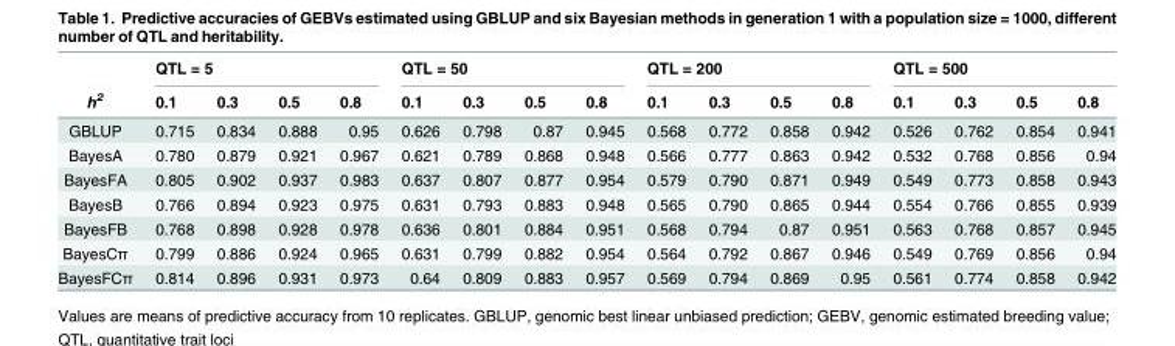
<table><thead><tr><td rowspan="2">h<sup>2</sup></td><td colspan="4">QTL = 5</td><td colspan="4">QTL = 50</td><td colspan="4">QTL = 200</td><td colspan="4">QTL = 500</td></tr><tr><td>0.1</td><td>0.3</td><td>0.5</td><td>0.8</td><td>0.1</td><td>0.3</td><td>0.5</td><td>0.8</td><td>0.1</td><td>0.3</td><td>0.5</td><td>0.8</td><td>0.1</td><td>0.3</td><td>0.5</td><td>0.8</td></tr></thead><tbody><tr><td>GBLUP</td><td>0.715</td><td>0.834</td><td>0.888</td><td>0.95</td><td>0.626</td><td>0.798</td><td>0.87</td><td>0.945</td><td>0.568</td><td>0.772</td><td>0.858</td><td>0.942</td><td>0.526</td><td>0.762</td><td>0.854</td><td>0.941</td></tr><tr><td>BayesA</td><td>0.780</td><td>0.879</td><td>0.921</td><td>0.967</td><td>0.621</td><td>0.789</td><td>0.868</td><td>0.948</td><td>0.566</td><td>0.777</td><td>0.863</td><td>0.942</td><td>0.532</td><td>0.768</td><td>0.856</td><td>0.94</td></tr><tr><td>BayesFA</td><td>0.805</td><td>0.902</td><td>0.937</td><td>0.983</td><td>0.637</td><td>0.807</td><td>0.877</td><td>0.954</td><td>0.579</td><td>0.790</td><td>0.871</td><td>0.949</td><td>0.549</td><td>0.773</td><td>0.858</td><td>0.943</td></tr><tr><td>BayesB</td><td>0.766</td><td>0.894</td><td>0.923</td><td>0.975</td><td>0.631</td><td>0.793</td><td>0.883</td><td>0.948</td><td>0.565</td><td>0.790</td><td>0.865</td><td>0.944</td><td>0.554</td><td>0.766</td><td>0.855</td><td>0.939</td></tr><tr><td>BayesFB</td><td>0.768</td><td>0.898</td><td>0.928</td><td>0.978</td><td>0.636</td><td>0.801</td><td>0.884</td><td>0.951</td><td>0.568</td><td>0.794</td><td>0.87</td><td>0.951</td><td>0.563</td><td>0.768</td><td>0.857</td><td>0.945</td></tr><tr><td>BayesCπ</td><td>0.799</td><td>0.886</td><td>0.924</td><td>0.965</td><td>0.631</td><td>0.799</td><td>0.882</td><td>0.954</td><td>0.564</td><td>0.792</td><td>0.867</td><td>0.946</td><td>0.549</td><td>0.769</td><td>0.856</td><td>0.94</td></tr><tr><td>BayesFCπ</td><td>0.814</td><td>0.896</td><td>0.931</td><td>0.973</td><td>0.64</td><td>0.809</td><td>0.883</td><td>0.957</td><td>0.569</td><td>0.794</td><td>0.869</td><td>0.95</td><td>0.561</td><td>0.774</td><td>0.858</td><td>0.942</td></tr></tbody></table>